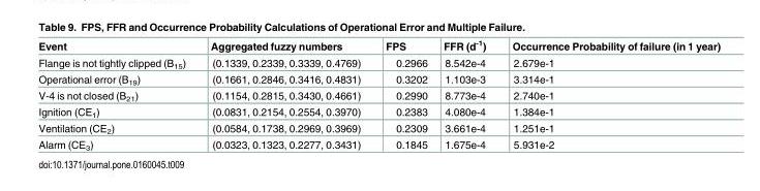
<table><thead><tr><td>Event</td><td>Aggregated fuzzy numbers</td><td>FPS</td><td>FFR (d<sup>-1</sup>)</td><td>Occurrence Probability of failure (in 1 year)</td></tr></thead><tbody><tr><td>Flange is not tightly clipped (B<sub>15</sub>)</td><td>(0.1339, 0.2339, 0.3339, 0.4769)</td><td>0.2966</td><td>8.542e-4</td><td>2.679e-1</td></tr><tr><td>Operational error (B<sub>19</sub>)</td><td>(0.1661, 0.2846, 0.3416, 0.4831)</td><td>0.3202</td><td>1.103e-3</td><td>3.314e-1</td></tr><tr><td>V-4 is not closed (B<sub>21</sub>)</td><td>(0.1154, 0.2815, 0.3430, 0.4661)</td><td>0.2990</td><td>8.773e-4</td><td>2.740e-1</td></tr><tr><td>Ignition (CE<sub>1</sub>)</td><td>(0.0831, 0.2154, 0.2554, 0.3970)</td><td>0.2383</td><td>4.080e-4</td><td>1.384e-1</td></tr><tr><td>Ventilation (CE<sub>2</sub>)</td><td>(0.0584, 0.1738, 0.2969, 0.3969)</td><td>0.2309</td><td>3.661e-4</td><td>1.251e-1</td></tr><tr><td>Alarm (CE<sub>3</sub>)</td><td>(0.0323, 0.1323, 0.2277, 0.3431)</td><td>0.1845</td><td>1.675e-4</td><td>5.931e-2</td></tr></tbody></table>